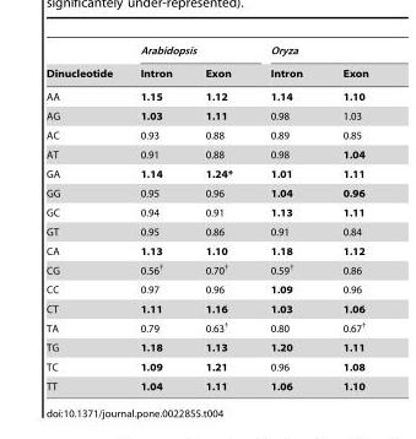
<table><thead><tr><td rowspan="2">Dinucleotide</td><td colspan="2">Arabidopsis</td><td colspan="2">Oryza</td></tr><tr><td>Intron</td><td>Exon</td><td>Intron</td><td>Exon</td></tr></thead><tbody><tr><td>AA</td><td>1.15</td><td>1.12</td><td>1.14</td><td>1.10</td></tr><tr><td>AG</td><td>1.03</td><td>1.11</td><td>0.98</td><td>1.03</td></tr><tr><td>AC</td><td>0.93</td><td>0.88</td><td>0.89</td><td>0.85</td></tr><tr><td>AT</td><td>0.91</td><td>0.88</td><td>0.98</td><td>1.04</td></tr><tr><td>GA</td><td>1.14</td><td>1.24*</td><td>1.01</td><td>1.11</td></tr><tr><td>GG</td><td>0.95</td><td>0.96</td><td>1.04</td><td>0.96</td></tr><tr><td>GC</td><td>0.94</td><td>0.91</td><td>1.13</td><td>1.11</td></tr><tr><td>GT</td><td>0.95</td><td>0.86</td><td>0.91</td><td>0.84</td></tr><tr><td>CA</td><td>1.13</td><td>1.10</td><td>1.18</td><td>1.12</td></tr><tr><td>CG</td><td>0.56<sup>†</sup></td><td>0.70<sup>†</sup></td><td>0.59<sup>†</sup></td><td>0.86</td></tr><tr><td>CC</td><td>0.97</td><td>0.96</td><td>1.09</td><td>0.96</td></tr><tr><td>CT</td><td>1.11</td><td>1.16</td><td>1.03</td><td>1.06</td></tr><tr><td>TA</td><td>0.79</td><td>0.63<sup>†</sup></td><td>0.80</td><td>0.67<sup>†</sup></td></tr><tr><td>TG</td><td>1.18</td><td>1.13</td><td>1.20</td><td>1.11</td></tr><tr><td>TC</td><td>1.09</td><td>1.21</td><td>0.96</td><td>1.08</td></tr><tr><td>TT</td><td>1.04</td><td>1.11</td><td>1.06</td><td>1.10</td></tr></tbody></table>